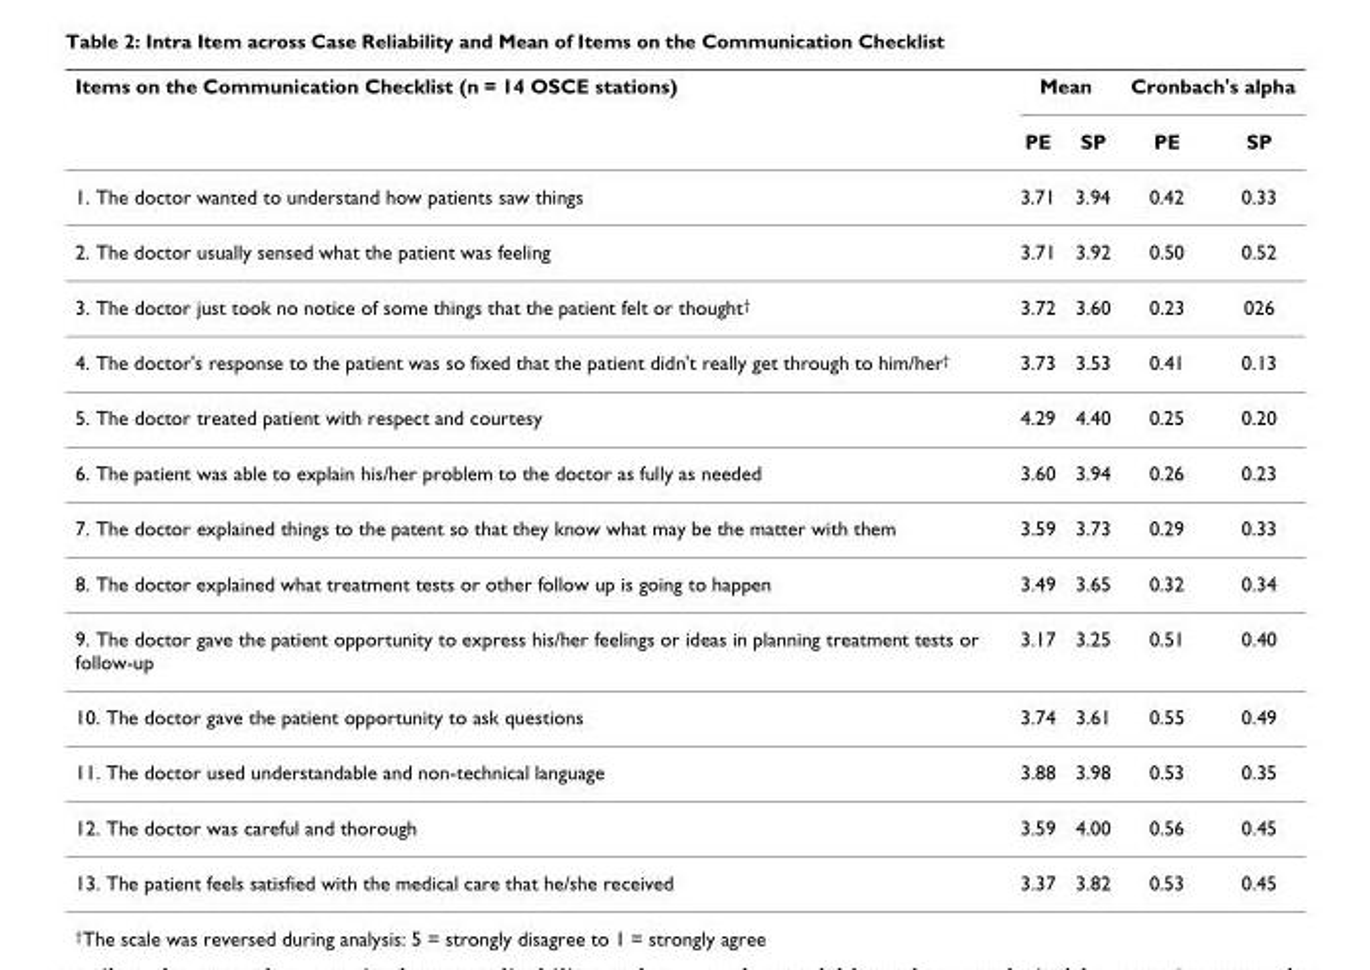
<table><thead><tr><td rowspan="2">Items on the Communication Checklist (n = 14 OSCE stations)</td><td colspan="2">Mean</td><td colspan="2">Cronbach&#x27;s alpha</td></tr><tr><td>PE</td><td>SP</td><td>PE</td><td>SP</td></tr></thead><tbody><tr><td>1. The doctor wanted to understand how patients saw things</td><td>3.71</td><td>3.94</td><td>0.42</td><td>0.33</td></tr><tr><td>2. The doctor usually sensed what the patient was feeling</td><td>3.71</td><td>3.92</td><td>0.50</td><td>0.52</td></tr><tr><td>3. The doctor just took no notice of some things that the patient felt or thought<sup>†</sup></td><td>3.72</td><td>3.60</td><td>0.23</td><td>026</td></tr><tr><td>4. The doctor&#x27;s response to the patient was so fixed that the patient didn&#x27;t really get through to him/her<sup>†</sup></td><td>3.73</td><td>3.53</td><td>0.41</td><td>0.13</td></tr><tr><td>5. The doctor treated patient with respect and courtesy</td><td>4.29</td><td>4.40</td><td>0.25</td><td>0.20</td></tr><tr><td>6. The patient was able to explain his/her problem to the doctor as fully as needed</td><td>3.60</td><td>3.94</td><td>0.26</td><td>0.23</td></tr><tr><td>7. The doctor explained things to the patent so that they know what may be the matter with them</td><td>3.59</td><td>3.73</td><td>0.29</td><td>0.33</td></tr><tr><td>8. The doctor explained what treatment tests or other follow up is going to happen</td><td>3.49</td><td>3.65</td><td>0.32</td><td>0.34</td></tr><tr><td>9. The doctor gave the patient opportunity to express his/her feelings or ideas in planning treatment tests or follow-up</td><td>3.17</td><td>3.25</td><td>0.51</td><td>0.40</td></tr><tr><td>10. The doctor gave the patient opportunity to ask questions</td><td>3.74</td><td>3.61</td><td>0.55</td><td>0.49</td></tr><tr><td>11. The doctor used understandable and non-technical language</td><td>3.88</td><td>3.98</td><td>0.53</td><td>0.35</td></tr><tr><td>12. The doctor was careful and thorough</td><td>3.59</td><td>4.00</td><td>0.56</td><td>0.45</td></tr><tr><td>13. The patient feels satisfied with the medical care that he/she received</td><td>3.37</td><td>3.82</td><td>0.53</td><td>0.45</td></tr></tbody></table>